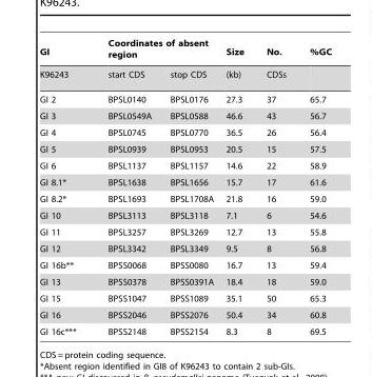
<table><thead><tr><td rowspan="2">GI K96243</td><td colspan="2">Coordinates of absent region</td><td rowspan="2">Size (kb)</td><td rowspan="2">No. CDSs</td><td rowspan="2">%GC</td></tr><tr><td>start CDS</td><td>stop CDS</td></tr></thead><tbody><tr><td>GI 2</td><td>BPSL0140</td><td>BPSL0176</td><td>27.3</td><td>37</td><td>65.7</td></tr><tr><td>GI 3</td><td>BPSL0549A</td><td>BPSL0588</td><td>46.6</td><td>43</td><td>56.7</td></tr><tr><td>GI 4</td><td>BPSL0745</td><td>BPSL0770</td><td>36.5</td><td>26</td><td>56.4</td></tr><tr><td>GI 5</td><td>BPSL0939</td><td>BPSL0953</td><td>20.5</td><td>15</td><td>57.5</td></tr><tr><td>GI 6</td><td>BPSL1137</td><td>BPSL1157</td><td>14.6</td><td>22</td><td>58.9</td></tr><tr><td>GI 8.1*</td><td>BPSL1638</td><td>BPSL1656</td><td>15.7</td><td>17</td><td>61.6</td></tr><tr><td>GI 8.2*</td><td>BPSL1693</td><td>BPSL1708A</td><td>21.8</td><td>16</td><td>59.0</td></tr><tr><td>GI 10</td><td>BPSL3113</td><td>BPSL3118</td><td>7.1</td><td>6</td><td>54.6</td></tr><tr><td>GI 11</td><td>BPSL3257</td><td>BPSL3269</td><td>12.7</td><td>13</td><td>55.8</td></tr><tr><td>GI 12</td><td>BPSL3342</td><td>BPSL3349</td><td>9.5</td><td>8</td><td>56.8</td></tr><tr><td>GI 16b**</td><td>BPSS0068</td><td>BPSS0080</td><td>16.7</td><td>13</td><td>59.4</td></tr><tr><td>GI 13</td><td>BPSS0378</td><td>BPSS0391A</td><td>18.4</td><td>18</td><td>59.0</td></tr><tr><td>GI 15</td><td>BPSS1047</td><td>BPSS1089</td><td>35.1</td><td>50</td><td>65.3</td></tr><tr><td>GI 16</td><td>BPSS2046</td><td>BPSS2076</td><td>50.4</td><td>34</td><td>60.8</td></tr><tr><td>GI 16c***</td><td>BPSS2148</td><td>BPSS2154</td><td>8.3</td><td>8</td><td>69.5</td></tr></tbody></table>